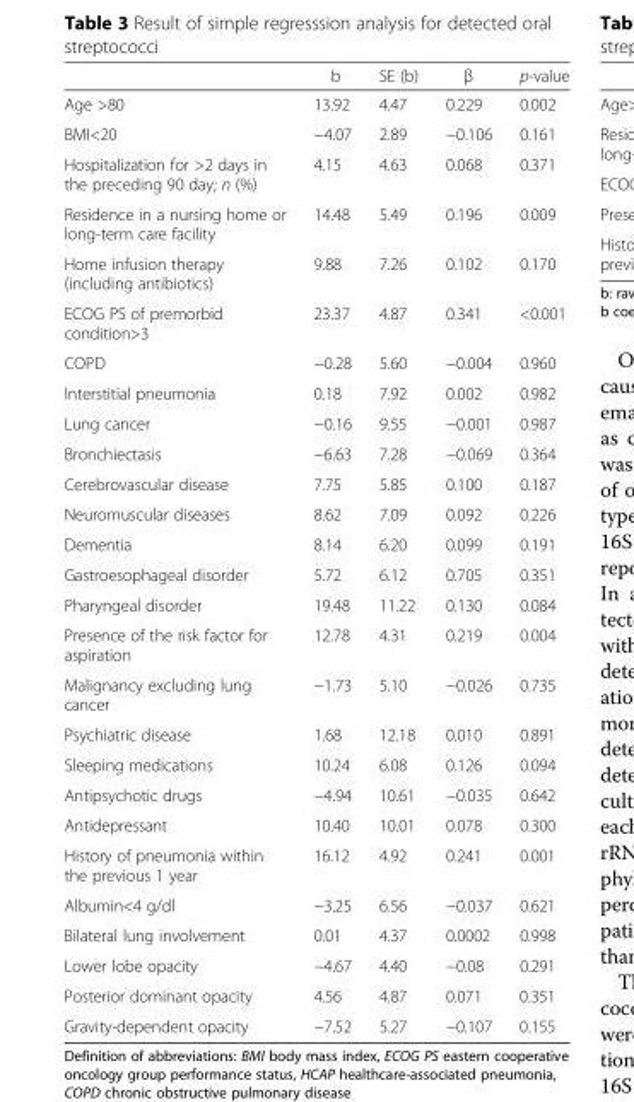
<table><thead><tr><td></td><td>b</td><td>SE (b)</td><td>β</td><td>p-value</td></tr></thead><tbody><tr><td>Age &gt;80</td><td>13.92</td><td>4.47</td><td>0.229</td><td>0.002</td></tr><tr><td>BMI&lt;20</td><td>−4.07</td><td>2.89</td><td>−0.106</td><td>0.161</td></tr><tr><td>Hospitalization for &gt;2 days in the preceding 90 day; n (%)</td><td>4.15</td><td>4.63</td><td>0.068</td><td>0.371</td></tr><tr><td>Residence in a nursing home or long-term care facility</td><td>14.48</td><td>5.49</td><td>0.196</td><td>0.009</td></tr><tr><td>Home infusion therapy (including antibiotics)</td><td>9.88</td><td>7.26</td><td>0.102</td><td>0.170</td></tr><tr><td>ECOG PS of premorbid condition&gt;3</td><td>23.37</td><td>4.87</td><td>0.341</td><td>&lt;0.001</td></tr><tr><td>COPD</td><td>−0.28</td><td>5.60</td><td>−0.004</td><td>0.960</td></tr><tr><td>Interstitial pneumonia</td><td>0.18</td><td>7.92</td><td>0.002</td><td>0.982</td></tr><tr><td>Lung cancer</td><td>−0.16</td><td>9.55</td><td>−0.001</td><td>0.987</td></tr><tr><td>Bronchiectasis</td><td>−6.63</td><td>7.28</td><td>−0.069</td><td>0.364</td></tr><tr><td>Cerebrovascular disease</td><td>7.75</td><td>5.85</td><td>0.100</td><td>0.187</td></tr><tr><td>Neuromuscular diseases</td><td>8.62</td><td>7.09</td><td>0.092</td><td>0.226</td></tr><tr><td>Dementia</td><td>8.14</td><td>6.20</td><td>0.099</td><td>0.191</td></tr><tr><td>Gastroesophageal disorder</td><td>5.72</td><td>6.12</td><td>0.705</td><td>0.351</td></tr><tr><td>Pharyngeal disorder</td><td>19.48</td><td>11.22</td><td>0.130</td><td>0.084</td></tr><tr><td>Presence of the risk factor for aspiration</td><td>12.78</td><td>4.31</td><td>0.219</td><td>0.004</td></tr><tr><td>Malignancy excluding lung cancer</td><td>−1.73</td><td>5.10</td><td>−0.026</td><td>0.735</td></tr><tr><td>Psychiatric disease</td><td>1.68</td><td>12.18</td><td>0.010</td><td>0.891</td></tr><tr><td>Sleeping medications</td><td>10.24</td><td>6.08</td><td>0.126</td><td>0.094</td></tr><tr><td>Antipsychotic drugs</td><td>−4.94</td><td>10.61</td><td>−0.035</td><td>0.642</td></tr><tr><td>Antidepressant</td><td>10.40</td><td>10.01</td><td>0.078</td><td>0.300</td></tr><tr><td>History of pneumonia within the previous 1 year</td><td>16.12</td><td>4.92</td><td>0.241</td><td>0.001</td></tr><tr><td>Albumin&lt;4 g/dl</td><td>−3.25</td><td>6.56</td><td>−0.037</td><td>0.621</td></tr><tr><td>Bilateral lung involvement</td><td>0.01</td><td>4.37</td><td>0.0002</td><td>0.998</td></tr><tr><td>Lower lobe opacity</td><td>−4.67</td><td>4.40</td><td>−0.08</td><td>0.291</td></tr><tr><td>Posterior dominant opacity</td><td>4.56</td><td>4.87</td><td>0.071</td><td>0.351</td></tr><tr><td>Gravity-dependent opacity</td><td>−7.52</td><td>5.27</td><td>−0.107</td><td>0.155</td></tr></tbody></table>